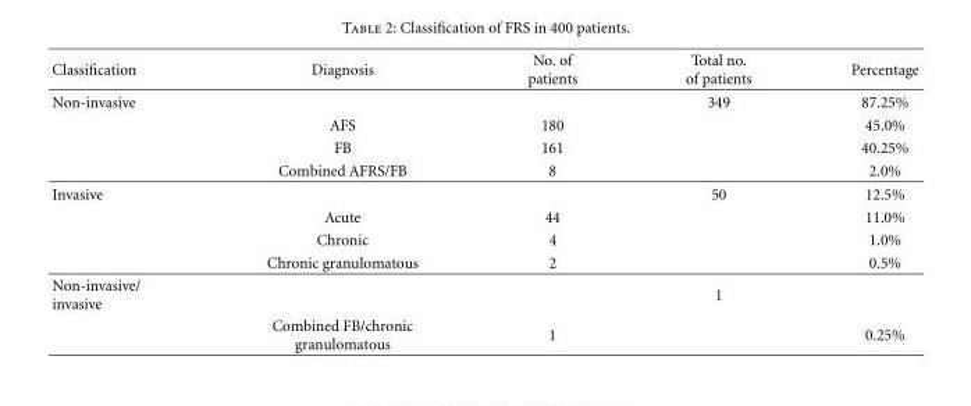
<table><thead><tr><td>Classification</td><td>Diagnosis</td><td>No. of patients</td><td>Total no. of patients</td><td>Percentage</td></tr></thead><tbody><tr><td rowspan="4">Non-invasive</td><td></td><td></td><td>349</td><td>87.25%</td></tr><tr><td>AFS</td><td>180</td><td></td><td>45.0%</td></tr><tr><td>FB</td><td>161</td><td></td><td>40.25%</td></tr><tr><td>Combined AFRS/FB</td><td>8</td><td></td><td>2.0%</td></tr><tr><td rowspan="4">Invasive</td><td></td><td></td><td>50</td><td>12.5%</td></tr><tr><td>Acute</td><td>44</td><td></td><td>11.0%</td></tr><tr><td>Chronic</td><td>4</td><td></td><td>1.0%</td></tr><tr><td>Chronic granulomatous</td><td>2</td><td></td><td>0.5%</td></tr><tr><td rowspan="2">Non-invasive/ invasive</td><td></td><td></td><td>1</td><td></td></tr><tr><td>Combined FB/chronic granulomatous</td><td>1</td><td></td><td>0.25%</td></tr></tbody></table>